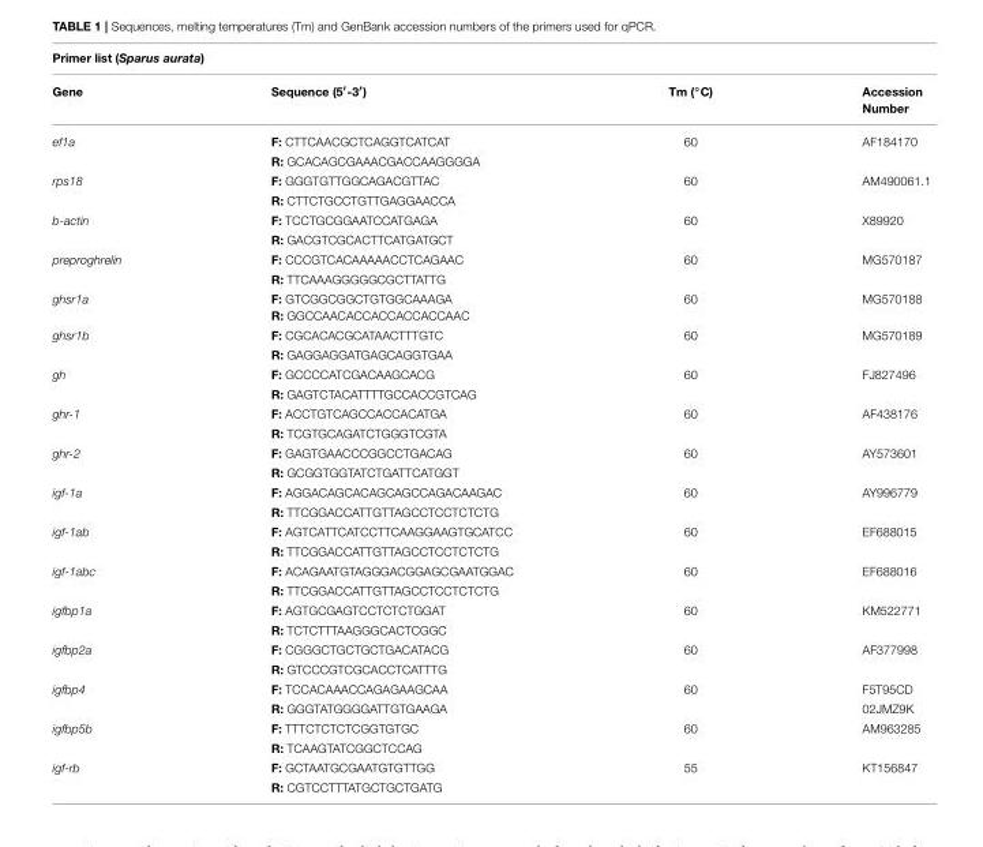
<table><thead><tr><td colspan="4">Primer list (Sparus aurata)</td></tr><tr><td>Gene</td><td>Sequence (5′-3′)</td><td>Tm (◦C)</td><td>Accession Number</td></tr></thead><tbody><tr><td rowspan="2">ef1a</td><td>F: CTTCAACGCTCAGGTCATCAT</td><td>60</td><td>AF184170</td></tr><tr><td>R: GCACAGCGAAACGACCAAGGGGA</td><td></td><td></td></tr><tr><td rowspan="2">rps18</td><td>F: GGGTGTTGGCAGACGTTAC</td><td>60</td><td>AM490061.1</td></tr><tr><td>R: CTTCTGCCTGTTGAGGAACCA</td><td></td><td></td></tr><tr><td rowspan="2">b-actin</td><td>F: TCCTGCGGAATCCATGAGA</td><td>60</td><td>X89920</td></tr><tr><td>R: GACGTCGCACTTCATGATGCT</td><td></td><td></td></tr><tr><td rowspan="2">preproghrelin</td><td>F: CCCGTCACAAAAACCTCAGAAC</td><td>60</td><td>MG570187</td></tr><tr><td>R: TTCAAAGGGGGCGCTTATTG</td><td></td><td></td></tr><tr><td>ghsr1a</td><td>F: GTCGGCGGCTGTGGCAAAGA R: GGCCAACACCACCACCACCAAC</td><td>60</td><td>MG570188</td></tr><tr><td rowspan="2">ghsr1b</td><td>F: CGCACACGCATAACTTTGTC</td><td>60</td><td>MG570189</td></tr><tr><td>R: GAGGAGGATGAGCAGGTGAA</td><td></td><td></td></tr><tr><td rowspan="2">gh</td><td>F: GCCCCATCGACAAGCACG</td><td>60</td><td>FJ827496</td></tr><tr><td>R: GAGTCTACATTTTGCCACCGTCAG</td><td></td><td></td></tr><tr><td rowspan="2">ghr-1</td><td>F: ACCTGTCAGCCACCACATGA</td><td>60</td><td>AF438176</td></tr><tr><td>R: TCGTGCAGATCTGGGTCGTA</td><td></td><td></td></tr><tr><td rowspan="2">ghr-2</td><td>F: GAGTGAACCCGGCCTGACAG</td><td>60</td><td>AY573601</td></tr><tr><td>R: GCGGTGGTATCTGATTCATGGT</td><td></td><td></td></tr><tr><td rowspan="2">igf-1a</td><td>F: AGGACAGCACAGCAGCCAGACAAGAC</td><td>60</td><td>AY996779</td></tr><tr><td>R: TTCGGACCATTGTTAGCCTCCTCTCTG</td><td></td><td></td></tr><tr><td rowspan="2">igf-1ab</td><td>F: AGTCATTCATCCTTCAAGGAAGTGCATCC</td><td>60</td><td>EF688015</td></tr><tr><td>R: TTCGGACCATTGTTAGCCTCCTCTCTG</td><td></td><td></td></tr><tr><td rowspan="2">igf-1abc</td><td>F: ACAGAATGTAGGGACGGAGCGAATGGAC</td><td>60</td><td>EF688016</td></tr><tr><td>R: TTCGGACCATTGTTAGCCTCCTCTCTG</td><td></td><td></td></tr><tr><td rowspan="2">igfbp1a</td><td>F: AGTGCGAGTCCTCTCTGGAT</td><td>60</td><td>KM522771</td></tr><tr><td>R: TCTCTTTAAGGGCACTCGGC</td><td></td><td></td></tr><tr><td rowspan="2">igfbp2a</td><td>F: CGGGCTGCTGCTGACATACG</td><td>60</td><td>AF377998</td></tr><tr><td>R: GTCCCGTCGCACCTCATTTG</td><td></td><td></td></tr><tr><td rowspan="2">igfbp4</td><td>F: TCCACAAACCAGAGAAGCAA</td><td>60</td><td>F5T95CD</td></tr><tr><td>R: GGGTATGGGGATTGTGAAGA</td><td></td><td>02JMZ9K</td></tr><tr><td rowspan="2">igfbp5b</td><td>F: TTTCTCTCTCGGTGTGC</td><td>60</td><td>AM963285</td></tr><tr><td>R: TCAAGTATCGGCTCCAG</td><td></td><td></td></tr><tr><td rowspan="2">igf-rb</td><td>F: GCTAATGCGAATGTGTTGG</td><td>55</td><td>KT156847</td></tr><tr><td>R: CGTCCTTTATGCTGCTGATG</td><td></td><td></td></tr></tbody></table>